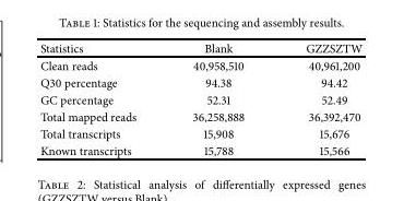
<table><thead><tr><td>Statistics</td><td>Blank</td><td>GZZSZTW</td></tr></thead><tbody><tr><td>Clean reads</td><td>40,958,510</td><td>40,961,200</td></tr><tr><td>Q30 percentage</td><td>94.38</td><td>94.42</td></tr><tr><td>GC percentage</td><td>52.31</td><td>52.49</td></tr><tr><td>Total mapped reads</td><td>36,258,888</td><td>36,392,470</td></tr><tr><td>Total transcripts</td><td>15,908</td><td>15,676</td></tr><tr><td>Known transcripts</td><td>15,788</td><td>15,566</td></tr></tbody></table>